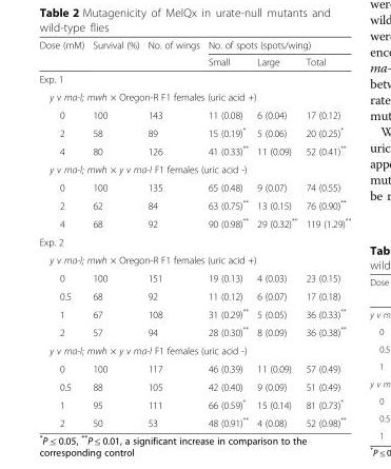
<table><thead><tr><td rowspan="2">Dose (mM)</td><td rowspan="2">Survival (%)</td><td rowspan="2">No. of wings</td><td colspan="3">No. of spots (spots/wing)</td></tr><tr><td>Small</td><td>Large</td><td>Total</td></tr></thead><tbody><tr><td colspan="6">Exp. 1</td></tr><tr><td colspan="6">y v ma-l; mwh × Oregon-R F1 females (uric acid +)</td></tr><tr><td>0</td><td>100</td><td>143</td><td>11 (0.08)</td><td>6 (0.04)</td><td>17 (0.12)</td></tr><tr><td>2</td><td>58</td><td>89</td><td>15 (0.19)*</td><td>5 (0.06)</td><td>20 (0.25)*</td></tr><tr><td>4</td><td>80</td><td>126</td><td>41 (0.33)**</td><td>11 (0.09)</td><td>52 (0.41)**</td></tr><tr><td colspan="6">y v ma-l; mwh × y v ma-l F1 females (uric acid -)</td></tr><tr><td>0</td><td>100</td><td>135</td><td>65 (0.48)</td><td>9 (0.07)</td><td>74 (0.55)</td></tr><tr><td>2</td><td>62</td><td>84</td><td>63 (0.75)**</td><td>13 (0.15)</td><td>76 (0.90)**</td></tr><tr><td>4</td><td>68</td><td>92</td><td>90 (0.98)**</td><td>29 (0.32)**</td><td>119 (1.29)**</td></tr><tr><td colspan="6">Exp. 2</td></tr><tr><td colspan="6">y v ma-l; mwh × Oregon-R F1 females (uric acid +)</td></tr><tr><td>0</td><td>100</td><td>151</td><td>19 (0.13)</td><td>4 (0.03)</td><td>23 (0.15)</td></tr><tr><td>0.5</td><td>68</td><td>92</td><td>11 (0.12)</td><td>6 (0.07)</td><td>17 (0.18)</td></tr><tr><td>1</td><td>67</td><td>108</td><td>31 (0.29)**</td><td>5 (0.05)</td><td>36 (0.33)**</td></tr><tr><td>2</td><td>57</td><td>94</td><td>28 (0.30)**</td><td>8 (0.09)</td><td>36 (0.38)**</td></tr><tr><td colspan="6">y v ma-l; mwh × y v ma-l F1 females (uric acid -)</td></tr><tr><td>0</td><td>100</td><td>117</td><td>46 (0.39)</td><td>11 (0.09)</td><td>57 (0.49)</td></tr><tr><td>0.5</td><td>88</td><td>105</td><td>42 (0.40)</td><td>9 (0.09)</td><td>51 (0.49)</td></tr><tr><td>1</td><td>95</td><td>111</td><td>66 (0.59)*</td><td>15 (0.14)</td><td>81 (0.73)*</td></tr><tr><td>2</td><td>50</td><td>53</td><td>48 (0.91)**</td><td>4 (0.08)</td><td>52 (0.98)**</td></tr></tbody></table>